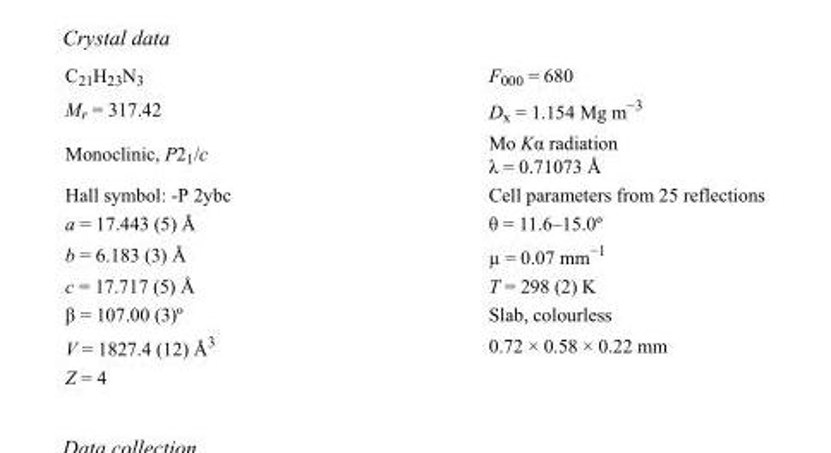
<table><tbody><tr><td>C<sub>21</sub>H<sub>23</sub>N<sub>3</sub></td><td>F000 = 680</td></tr><tr><td>M<sub>r</sub> = 317.42</td><td>D<sub>x</sub> = 1.154 Mg m<sup>−3</sup></td></tr><tr><td>Monoclinic, P2<sub>1</sub>/c</td><td>Mo Kα radiation λ = 0.71073 Å</td></tr><tr><td>Hall symbol: -P 2ybc</td><td>Cell parameters from 25 reflections</td></tr><tr><td>a = 17.443 (5) Å</td><td>θ = 11.6–15.0º</td></tr><tr><td>b = 6.183 (3) Å</td><td>µ = 0.07 mm<sup>−1</sup></td></tr><tr><td>c = 17.717 (5) Å</td><td>T = 298 (2) K</td></tr><tr><td>β = 107.00 (3)º</td><td>Slab, colourless</td></tr><tr><td>V = 1827.4 (12) Å<sup>3</sup></td><td>0.72 × 0.58 × 0.22 mm</td></tr><tr><td>Z = 4</td><td></td></tr></tbody></table>